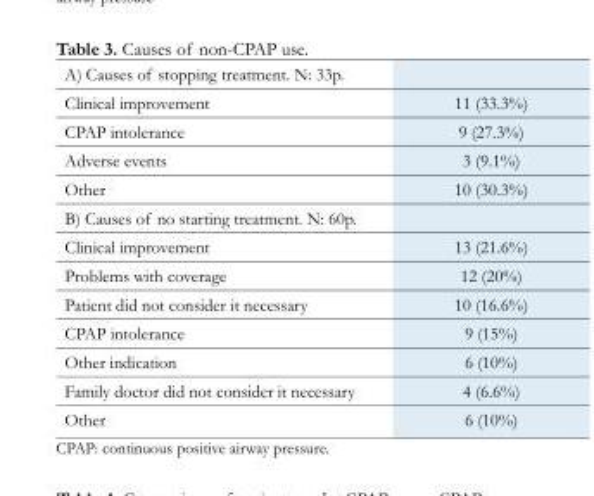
<table><thead><tr><td>A) Causes of stopping treatment. N: 33p.</td><td></td></tr></thead><tbody><tr><td>Clinical improvement</td><td>11 (33.3%)</td></tr><tr><td>CPAP intolerance</td><td>9 (27.3%)</td></tr><tr><td>Adverse events</td><td>3 (9.1%)</td></tr><tr><td>Other</td><td>10 (30.3%)</td></tr><tr><td colspan="2">B) Causes of no starting treatment. N: 60p.</td></tr><tr><td>Clinical improvement</td><td>13 (21.6%)</td></tr><tr><td>Problems with coverage</td><td>12 (20%)</td></tr><tr><td>Patient did not consider it necessary</td><td>10 (16.6%)</td></tr><tr><td>CPAP intolerance</td><td>9 (15%)</td></tr><tr><td>Other indication</td><td>6 (10%)</td></tr><tr><td>Family doctor did not consider it necessary</td><td>4 (6.6%)</td></tr><tr><td>Other</td><td>6 (10%)</td></tr></tbody></table>